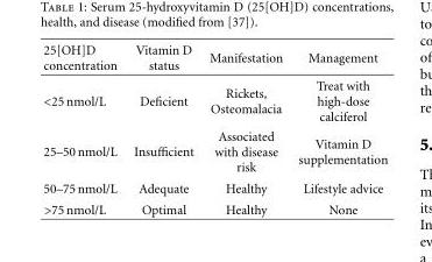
<table><thead><tr><td>25[OH]D concentration</td><td>Vitamin D status</td><td>Manifestation</td><td>Management</td></tr></thead><tbody><tr><td>&lt;25 nmol/L</td><td>Deficient</td><td>Rickets, Osteomalacia</td><td>Treat with high-dose calciferol</td></tr><tr><td>25–50 nmol/L</td><td>Insufficient</td><td>Associated with disease risk</td><td>Vitamin D supplementation</td></tr><tr><td>50–75 nmol/L</td><td>Adequate</td><td>Healthy</td><td>Lifestyle advice</td></tr><tr><td>&gt;75 nmol/L</td><td>Optimal</td><td>Healthy</td><td>None</td></tr></tbody></table>